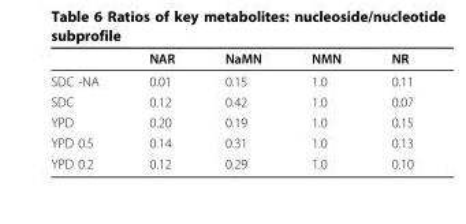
<table><thead><tr><td></td><td>NAR</td><td>NaMN</td><td>NMN</td><td>NR</td></tr></thead><tbody><tr><td>SDC -NA</td><td>0.01</td><td>0.15</td><td>1.0</td><td>0.11</td></tr><tr><td>SDC</td><td>0.12</td><td>0.42</td><td>1.0</td><td>0.07</td></tr><tr><td>YPD</td><td>0.20</td><td>0.19</td><td>1.0</td><td>0.15</td></tr><tr><td>YPD 0.5</td><td>0.14</td><td>0.31</td><td>1.0</td><td>0.13</td></tr><tr><td>YPD 0.2</td><td>0.12</td><td>0.29</td><td>1.0</td><td>0.10</td></tr></tbody></table>